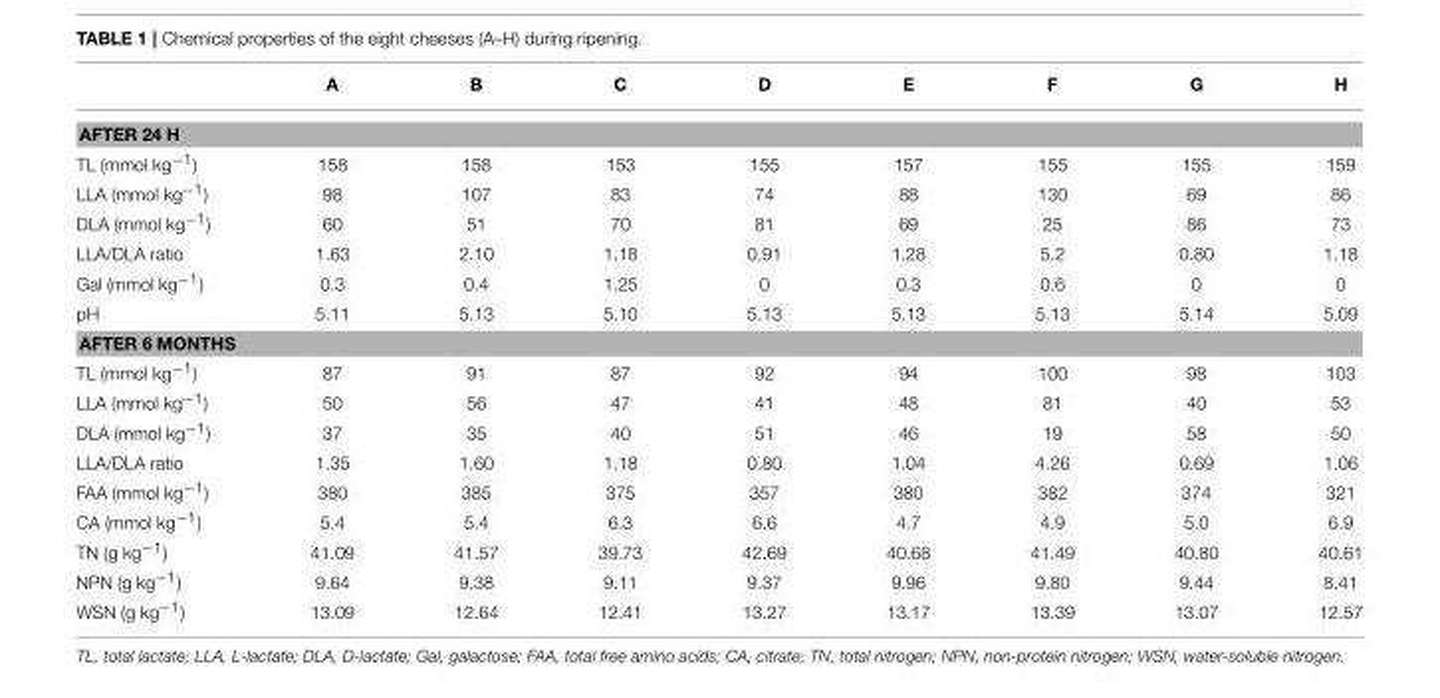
<table><thead><tr><td></td><td>A</td><td>B</td><td>C</td><td>D</td><td>E</td><td>F</td><td>G</td><td>H</td></tr></thead><tbody><tr><td colspan="9">AFTER 24 H</td></tr><tr><td>TL (mmol kg<sup>−1</sup>)</td><td>158</td><td>158</td><td>153</td><td>155</td><td>157</td><td>155</td><td>155</td><td>159</td></tr><tr><td>LLA (mmol kg<sup>−1</sup>)</td><td>98</td><td>107</td><td>83</td><td>74</td><td>88</td><td>130</td><td>69</td><td>86</td></tr><tr><td>DLA (mmol kg<sup>−1</sup>)</td><td>60</td><td>51</td><td>70</td><td>81</td><td>69</td><td>25</td><td>86</td><td>73</td></tr><tr><td>LLA/DLA ratio</td><td>1.63</td><td>2.10</td><td>1.18</td><td>0.91</td><td>1.28</td><td>5.2</td><td>0.80</td><td>1.18</td></tr><tr><td>Gal (mmol kg<sup>−1</sup>)</td><td>0.3</td><td>0.4</td><td>1.25</td><td>0</td><td>0.3</td><td>0.6</td><td>0</td><td>0</td></tr><tr><td>pH</td><td>5.11</td><td>5.13</td><td>5.10</td><td>5.13</td><td>5.13</td><td>5.13</td><td>5.14</td><td>5.09</td></tr><tr><td colspan="9">AFTER 6 MONTHS</td></tr><tr><td>TL (mmol kg<sup>−1</sup>)</td><td>87</td><td>91</td><td>87</td><td>92</td><td>94</td><td>100</td><td>98</td><td>103</td></tr><tr><td>LLA (mmol kg<sup>−1</sup>)</td><td>50</td><td>56</td><td>47</td><td>41</td><td>48</td><td>81</td><td>40</td><td>53</td></tr><tr><td>DLA (mmol kg<sup>−1</sup>)</td><td>37</td><td>35</td><td>40</td><td>51</td><td>46</td><td>19</td><td>58</td><td>50</td></tr><tr><td>LLA/DLA ratio</td><td>1.35</td><td>1.60</td><td>1.18</td><td>0.80</td><td>1.04</td><td>4.26</td><td>0.69</td><td>1.06</td></tr><tr><td>FAA (mmol kg<sup>−1</sup>)</td><td>380</td><td>385</td><td>375</td><td>357</td><td>380</td><td>382</td><td>374</td><td>321</td></tr><tr><td>CA (mmol kg<sup>−1</sup>)</td><td>5.4</td><td>5.4</td><td>6.3</td><td>6.6</td><td>4.7</td><td>4.9</td><td>5.0</td><td>6.9</td></tr><tr><td>TN (g kg<sup>−1</sup>)</td><td>41.09</td><td>41.57</td><td>39.73</td><td>42.69</td><td>40.68</td><td>41.49</td><td>40.80</td><td>40.61</td></tr><tr><td>NPN (g kg<sup>−1</sup>)</td><td>9.64</td><td>9.38</td><td>9.11</td><td>9.37</td><td>9.96</td><td>9.80</td><td>9.44</td><td>8.41</td></tr><tr><td>WSN (g kg<sup>−1</sup>)</td><td>13.09</td><td>12.64</td><td>12.41</td><td>13.27</td><td>13.17</td><td>13.39</td><td>13.07</td><td>12.57</td></tr></tbody></table>